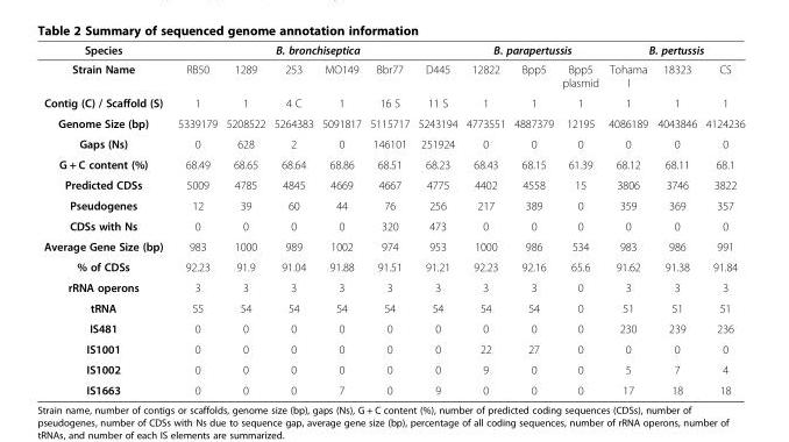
<table><thead><tr><td rowspan="2">Species Strain Name</td><td colspan="6">B. bronchiseptica</td><td colspan="3">B. parapertussis</td><td colspan="3">B. pertussis</td></tr><tr><td>RB50</td><td>1289</td><td>253</td><td>MO149</td><td>Bbr77</td><td>D445</td><td>12822</td><td>Bpp5</td><td>Bpp5 plasmid</td><td>Tohama I</td><td>18323</td><td>CS</td></tr></thead><tbody><tr><td>Contig (C) / Scaffold (S)</td><td>1</td><td>1</td><td>4 C</td><td>1</td><td>16 S</td><td>11 S</td><td>1</td><td>1</td><td>1</td><td>1</td><td>1</td><td>1</td></tr><tr><td>Genome Size (bp)</td><td>5339179</td><td>5208522</td><td>5264383</td><td>5091817</td><td>5115717</td><td>5243194</td><td>4773551</td><td>4887379</td><td>12195</td><td>4086189</td><td>4043846</td><td>4124236</td></tr><tr><td>Gaps (Ns)</td><td>0</td><td>628</td><td>2</td><td>0</td><td>146101</td><td>251924</td><td>0</td><td>0</td><td>0</td><td>0</td><td>0</td><td>0</td></tr><tr><td>G + C content (%)</td><td>68.49</td><td>68.65</td><td>68.64</td><td>68.86</td><td>68.51</td><td>68.23</td><td>68.43</td><td>68.15</td><td>61.39</td><td>68.12</td><td>68.11</td><td>68.1</td></tr><tr><td>Predicted CDSs</td><td>5009</td><td>4785</td><td>4845</td><td>4669</td><td>4667</td><td>4775</td><td>4402</td><td>4558</td><td>15</td><td>3806</td><td>3746</td><td>3822</td></tr><tr><td>Pseudogenes</td><td>12</td><td>39</td><td>60</td><td>44</td><td>76</td><td>256</td><td>217</td><td>389</td><td>0</td><td>359</td><td>369</td><td>357</td></tr><tr><td>CDSs with Ns</td><td>0</td><td>0</td><td>0</td><td>0</td><td>320</td><td>473</td><td>0</td><td>0</td><td>0</td><td>0</td><td>0</td><td>0</td></tr><tr><td>Average Gene Size (bp)</td><td>983</td><td>1000</td><td>989</td><td>1002</td><td>974</td><td>953</td><td>1000</td><td>986</td><td>534</td><td>983</td><td>986</td><td>991</td></tr><tr><td>% of CDSs</td><td>92.23</td><td>91.9</td><td>91.04</td><td>91.88</td><td>91.51</td><td>91.21</td><td>92.23</td><td>92.16</td><td>65.6</td><td>91.62</td><td>91.38</td><td>91.84</td></tr><tr><td>rRNA operons</td><td>3</td><td>3</td><td>3</td><td>3</td><td>3</td><td>3</td><td>3</td><td>3</td><td>0</td><td>3</td><td>3</td><td>3</td></tr><tr><td>tRNA</td><td>55</td><td>54</td><td>54</td><td>54</td><td>54</td><td>54</td><td>54</td><td>54</td><td>0</td><td>51</td><td>51</td><td>51</td></tr><tr><td>IS481</td><td>0</td><td>0</td><td>0</td><td>0</td><td>0</td><td>0</td><td>0</td><td>0</td><td>0</td><td>230</td><td>239</td><td>236</td></tr><tr><td>IS1001</td><td>0</td><td>0</td><td>0</td><td>0</td><td>0</td><td>0</td><td>22</td><td>27</td><td>0</td><td>0</td><td>0</td><td>0</td></tr><tr><td>IS1002</td><td>0</td><td>0</td><td>0</td><td>0</td><td>0</td><td>0</td><td>9</td><td>0</td><td>0</td><td>5</td><td>7</td><td>4</td></tr><tr><td>IS1663</td><td>0</td><td>0</td><td>0</td><td>7</td><td>0</td><td>9</td><td>0</td><td>0</td><td>0</td><td>17</td><td>18</td><td>18</td></tr></tbody></table>